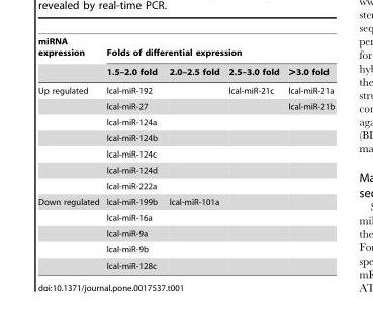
<table><thead><tr><td rowspan="2">miRNA expression</td><td colspan="4">Folds of differential expression</td></tr><tr><td>1.5–2.0 fold</td><td>2.0–2.5 fold</td><td>2.5–3.0 fold</td><td>&gt;3.0 fold</td></tr></thead><tbody><tr><td rowspan="7">Up regulated</td><td>lcal-miR-192</td><td></td><td>lcal-miR-21c</td><td>lcal-miR-21a</td></tr><tr><td>lcal-miR-27</td><td></td><td></td><td>lcal-miR-21b</td></tr><tr><td>lcal-miR-124a</td><td></td><td></td><td></td></tr><tr><td>lcal-miR-124b</td><td></td><td></td><td></td></tr><tr><td>lcal-miR-124c</td><td></td><td></td><td></td></tr><tr><td>lcal-miR-124d</td><td></td><td></td><td></td></tr><tr><td>lcal-miR-222a</td><td></td><td></td><td></td></tr><tr><td rowspan="5">Down regulated</td><td>lcal-miR-199b</td><td>lcal-miR-101a</td><td></td><td></td></tr><tr><td>lcal-miR-16a</td><td></td><td></td><td></td></tr><tr><td>lcal-miR-9a</td><td></td><td></td><td></td></tr><tr><td>lcal-miR-9b</td><td></td><td></td><td></td></tr><tr><td>lcal-miR-128c</td><td></td><td></td><td></td></tr></tbody></table>